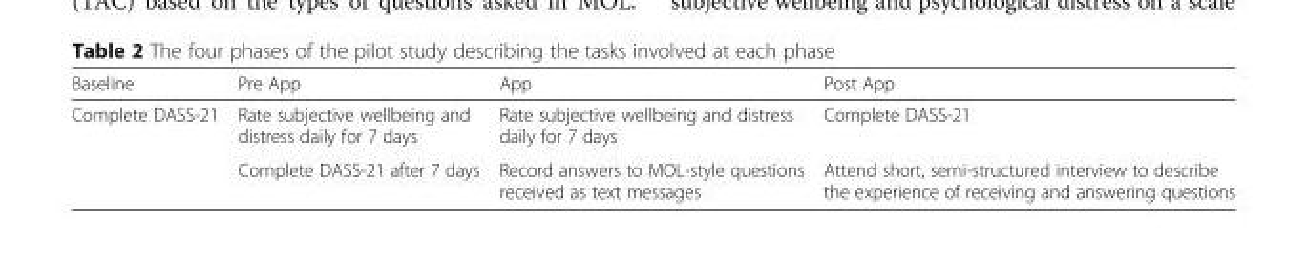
<table><thead><tr><td>Baseline</td><td>Pre App</td><td>App</td><td>Post App</td></tr></thead><tbody><tr><td rowspan="2">Complete DASS-21</td><td>Rate subjective wellbeing and distress daily for 7 days</td><td>Rate subjective wellbeing and distress daily for 7 days</td><td>Complete DASS-21</td></tr><tr><td>Complete DASS-21 after 7 days</td><td>Record answers to MOL-style questions received as text messages</td><td>Attend short, semi-structured interview to describe the experience of receiving and answering questions</td></tr></tbody></table>